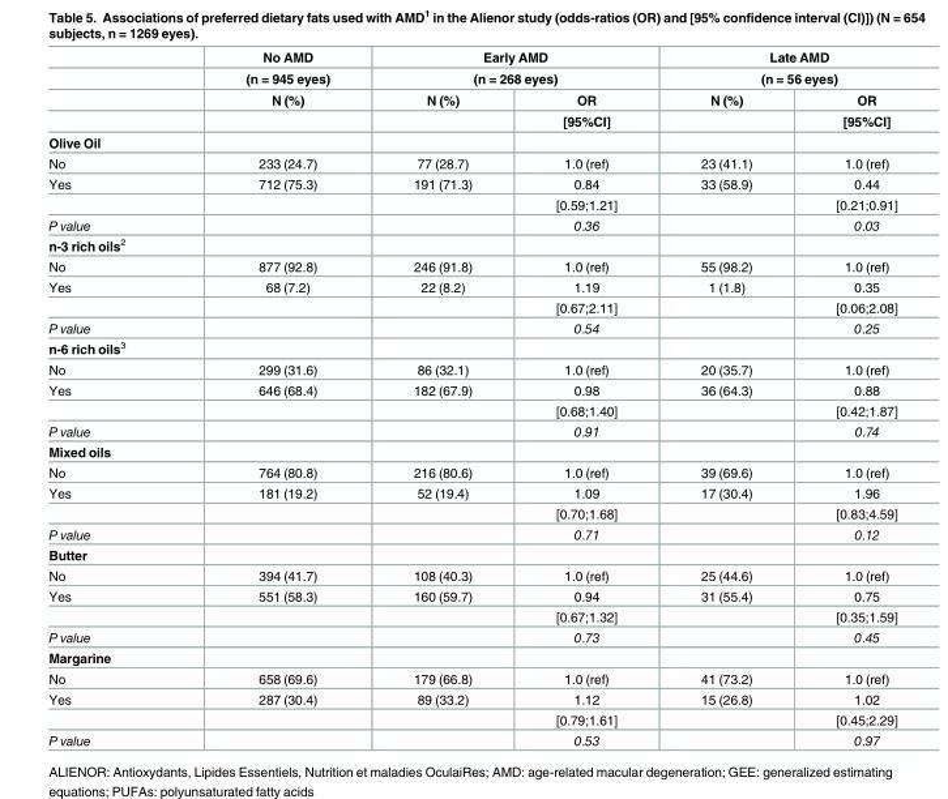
<table><thead><tr><td rowspan="4"></td><td rowspan="4">No AMD (n = 945 eyes) N (%)</td><td rowspan="2" colspan="2">Early AMD (n = 268 eyes)</td><td rowspan="2" colspan="2">Late AMD (n = 56 eyes)</td></tr><tr></tr><tr><td rowspan="2">N (%)</td><td rowspan="2">OR [95%CI]</td><td rowspan="2">N (%)</td><td rowspan="2">OR [95%CI]</td></tr><tr></tr></thead><tbody><tr><td colspan="6">Olive Oil</td></tr><tr><td>No</td><td>233 (24.7)</td><td>77 (28.7)</td><td>1.0 (ref)</td><td>23 (41.1)</td><td>1.0 (ref)</td></tr><tr><td rowspan="2">Yes</td><td>712 (75.3)</td><td>191 (71.3)</td><td>0.84</td><td>33 (58.9)</td><td>0.44</td></tr><tr><td></td><td></td><td>[0.59;1.21]</td><td></td><td>[0.21;0.91]</td></tr><tr><td>P value</td><td></td><td></td><td>0.36</td><td></td><td>0.03</td></tr><tr><td colspan="6">n-3 rich oils<sup>2</sup></td></tr><tr><td>No</td><td>877 (92.8)</td><td>246 (91.8)</td><td>1.0 (ref)</td><td>55 (98.2)</td><td>1.0 (ref)</td></tr><tr><td rowspan="2">Yes</td><td>68 (7.2)</td><td>22 (8.2)</td><td>1.19</td><td>1 (1.8)</td><td>0.35</td></tr><tr><td></td><td></td><td>[0.67;2.11]</td><td></td><td>[0.06;2.08]</td></tr><tr><td>P value</td><td></td><td></td><td>0.54</td><td></td><td>0.25</td></tr><tr><td colspan="6">n-6 rich oils<sup>3</sup></td></tr><tr><td>No</td><td>299 (31.6)</td><td>86 (32.1)</td><td>1.0 (ref)</td><td>20 (35.7)</td><td>1.0 (ref)</td></tr><tr><td rowspan="2">Yes</td><td>646 (68.4)</td><td>182 (67.9)</td><td>0.98</td><td>36 (64.3)</td><td>0.88</td></tr><tr><td></td><td></td><td>[0.68;1.40]</td><td></td><td>[0.42;1.87]</td></tr><tr><td>P value</td><td></td><td></td><td>0.91</td><td></td><td>0.74</td></tr><tr><td colspan="6">Mixed oils</td></tr><tr><td>No</td><td>764 (80.8)</td><td>216 (80.6)</td><td>1.0 (ref)</td><td>39 (69.6)</td><td>1.0 (ref)</td></tr><tr><td rowspan="2">Yes</td><td>181 (19.2)</td><td>52 (19.4)</td><td>1.09</td><td>17 (30.4)</td><td>1.96</td></tr><tr><td></td><td></td><td>[0.70;1.68]</td><td></td><td>[0.83;4.59]</td></tr><tr><td>P value</td><td></td><td></td><td>0.71</td><td></td><td>0.12</td></tr><tr><td colspan="6">Butter</td></tr><tr><td>No</td><td>394 (41.7)</td><td>108 (40.3)</td><td>1.0 (ref)</td><td>25 (44.6)</td><td>1.0 (ref)</td></tr><tr><td rowspan="2">Yes</td><td>551 (58.3)</td><td>160 (59.7)</td><td>0.94</td><td>31 (55.4)</td><td>0.75</td></tr><tr><td></td><td></td><td>[0.67;1.32]</td><td></td><td>[0.35;1.59]</td></tr><tr><td>P value</td><td></td><td></td><td>0.73</td><td></td><td>0.45</td></tr><tr><td colspan="6">Margarine</td></tr><tr><td>No</td><td>658 (69.6)</td><td>179 (66.8)</td><td>1.0 (ref)</td><td>41 (73.2)</td><td>1.0 (ref)</td></tr><tr><td rowspan="2">Yes</td><td>287 (30.4)</td><td>89 (33.2)</td><td>1.12</td><td>15 (26.8)</td><td>1.02</td></tr><tr><td></td><td></td><td>[0.79;1.61]</td><td></td><td>[0.45;2.29]</td></tr><tr><td>P value</td><td></td><td></td><td>0.53</td><td></td><td>0.97</td></tr></tbody></table>